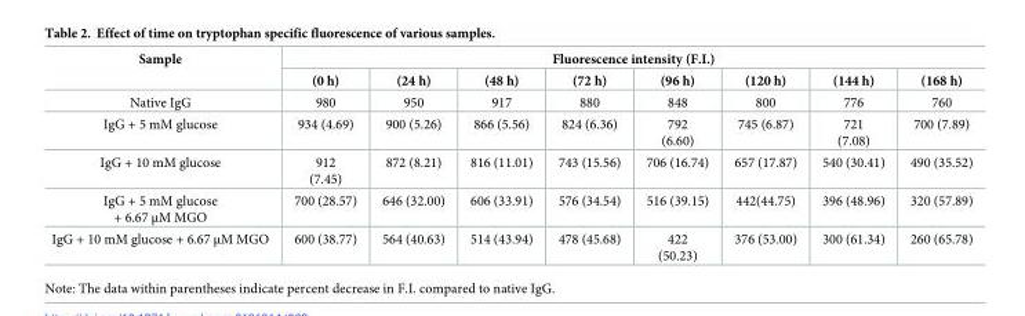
<table><thead><tr><td rowspan="2">Sample</td><td colspan="8">Fluorescence intensity (F.I.)</td></tr><tr><td>(0 h)</td><td>(24 h)</td><td>(48 h)</td><td>(72 h)</td><td>(96 h)</td><td>(120 h)</td><td>(144 h)</td><td>(168 h)</td></tr></thead><tbody><tr><td>Native IgG</td><td>980</td><td>950</td><td>917</td><td>880</td><td>848</td><td>800</td><td>776</td><td>760</td></tr><tr><td>IgG + 5 mM glucose</td><td>934 (4.69)</td><td>900 (5.26)</td><td>866 (5.56)</td><td>824 (6.36)</td><td>792 (6.60)</td><td>745 (6.87)</td><td>721 (7.08)</td><td>700 (7.89)</td></tr><tr><td>IgG + 10 mM glucose</td><td>912 (7.45)</td><td>872 (8.21)</td><td>816 (11.01)</td><td>743 (15.56)</td><td>706 (16.74)</td><td>657 (17.87)</td><td>540 (30.41)</td><td>490 (35.52)</td></tr><tr><td>IgG + 5 mM glucose + 6.67 μM MGO</td><td>700 (28.57)</td><td>646 (32.00)</td><td>606 (33.91)</td><td>576 (34.54)</td><td>516 (39.15)</td><td>442(44.75)</td><td>396 (48.96)</td><td>320 (57.89)</td></tr><tr><td>IgG + 10 mM glucose + 6.67 μM MGO</td><td>600 (38.77)</td><td>564 (40.63)</td><td>514 (43.94)</td><td>478 (45.68)</td><td>422 (50.23)</td><td>376 (53.00)</td><td>300 (61.34)</td><td>260 (65.78)</td></tr></tbody></table>